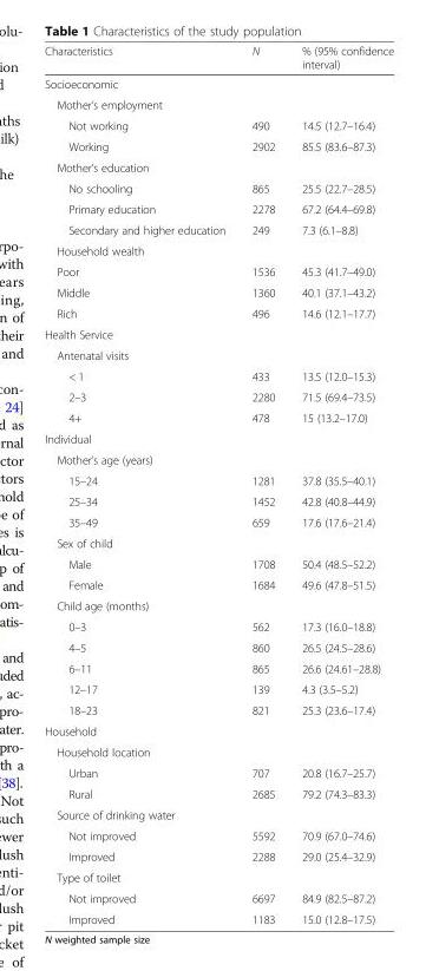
<table><thead><tr><td>Characteristics</td><td>N</td><td>% (95% confidence interval)</td></tr></thead><tbody><tr><td colspan="3">Socioeconomic</td></tr><tr><td colspan="3">Mother’s employment</td></tr><tr><td>Not working</td><td>490</td><td>14.5 (12.7–16.4)</td></tr><tr><td>Working</td><td>2902</td><td>85.5 (83.6–87.3)</td></tr><tr><td colspan="3">Mother’s education</td></tr><tr><td>No schooling</td><td>865</td><td>25.5 (22.7–28.5)</td></tr><tr><td>Primary education</td><td>2278</td><td>67.2 (64.4–69.8)</td></tr><tr><td>Secondary and higher education</td><td>249</td><td>7.3 (6.1–8.8)</td></tr><tr><td colspan="3">Household wealth</td></tr><tr><td>Poor</td><td>1536</td><td>45.3 (41.7–49.0)</td></tr><tr><td>Middle</td><td>1360</td><td>40.1 (37.1–43.2)</td></tr><tr><td>Rich</td><td>496</td><td>14.6 (12.1–17.7)</td></tr><tr><td colspan="3">Health Service</td></tr><tr><td colspan="3">Antenatal visits</td></tr><tr><td>&lt; 1</td><td>433</td><td>13.5 (12.0–15.3)</td></tr><tr><td>2–3</td><td>2280</td><td>71.5 (69.4–73.5)</td></tr><tr><td>4+</td><td>478</td><td>15 (13.2–17.0)</td></tr><tr><td colspan="3">Individual</td></tr><tr><td colspan="3">Mother’s age (years)</td></tr><tr><td>15–24</td><td>1281</td><td>37.8 (35.5–40.1)</td></tr><tr><td>25–34</td><td>1452</td><td>42.8 (40.8–44.9)</td></tr><tr><td>35–49</td><td>659</td><td>17.6 (17.6–21.4)</td></tr><tr><td colspan="3">Sex of child</td></tr><tr><td>Male</td><td>1708</td><td>50.4 (48.5–52.2)</td></tr><tr><td>Female</td><td>1684</td><td>49.6 (47.8–51.5)</td></tr><tr><td colspan="3">Child age (months)</td></tr><tr><td>0–3</td><td>562</td><td>17.3 (16.0–18.8)</td></tr><tr><td>4–5</td><td>860</td><td>26.5 (24.5–28.6)</td></tr><tr><td>6–11</td><td>865</td><td>26.6 (24.61–28.8)</td></tr><tr><td>12–17</td><td>139</td><td>4.3 (3.5–5.2)</td></tr><tr><td>18–23</td><td>821</td><td>25.3 (23.6–17.4)</td></tr><tr><td colspan="3">Household</td></tr><tr><td colspan="3">Household location</td></tr><tr><td>Urban</td><td>707</td><td>20.8 (16.7–25.7)</td></tr><tr><td>Rural</td><td>2685</td><td>79.2 (74.3–83.3)</td></tr><tr><td colspan="3">Source of drinking water</td></tr><tr><td>Not improved</td><td>5592</td><td>70.9 (67.0–74.6)</td></tr><tr><td>Improved</td><td>2288</td><td>29.0 (25.4–32.9)</td></tr><tr><td colspan="3">Type of toilet</td></tr><tr><td>Not improved</td><td>6697</td><td>84.9 (82.5–87.2)</td></tr><tr><td>Improved</td><td>1183</td><td>15.0 (12.8–17.5)</td></tr></tbody></table>